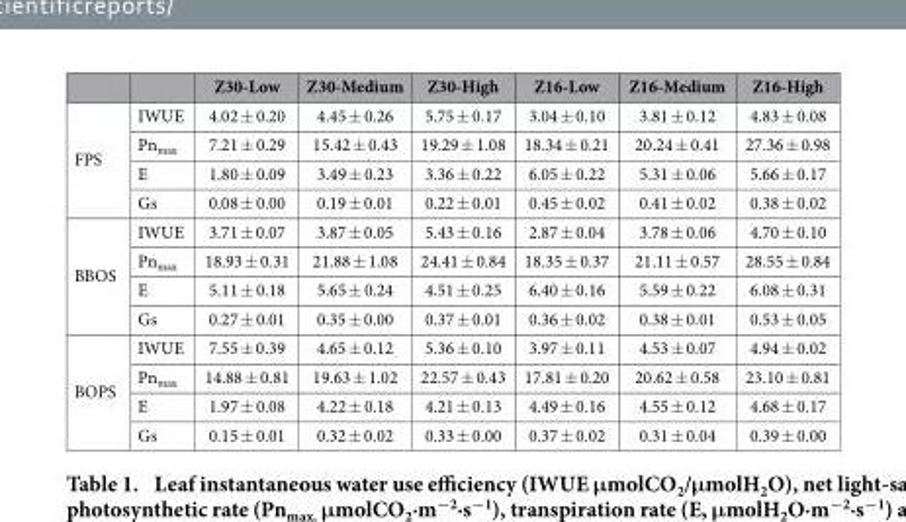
<table><thead><tr><td></td><td></td><td>Z30-Low</td><td>Z30-Medium</td><td>Z30-High</td><td>Z16-Low</td><td>Z16-Medium</td><td>Z16-High</td></tr></thead><tbody><tr><td rowspan="4">FPS</td><td>IWUE</td><td>4.02 ± 0.20</td><td>4.45 ± 0.26</td><td>5.75 ± 0.17</td><td>3.04 ± 0.10</td><td>3.81 ± 0.12</td><td>4.83 ± 0.08</td></tr><tr><td>Pn<sub>max</sub></td><td>7.21 ± 0.29</td><td>15.42 ± 0.43</td><td>19.29 ± 1.08</td><td>18.34 ± 0.21</td><td>20.24 ± 0.41</td><td>27.36 ± 0.98</td></tr><tr><td>E</td><td>1.80 ± 0.09</td><td>3.49 ± 0.23</td><td>3.36 ± 0.22</td><td>6.05 ± 0.22</td><td>5.31 ± 0.06</td><td>5.66 ± 0.17</td></tr><tr><td>Gs</td><td>0.08 ± 0.00</td><td>0.19 ± 0.01</td><td>0.22 ± 0.01</td><td>0.45 ± 0.02</td><td>0.41 ± 0.02</td><td>0.38 ± 0.02</td></tr><tr><td rowspan="4">BBOS</td><td>IWUE</td><td>3.71 ± 0.07</td><td>3.87 ± 0.05</td><td>5.43 ± 0.16</td><td>2.87 ± 0.04</td><td>3.78 ± 0.06</td><td>4.70 ± 0.10</td></tr><tr><td>Pn<sub>max</sub></td><td>18.93 ± 0.31</td><td>21.88 ± 1.08</td><td>24.41 ± 0.84</td><td>18.35 ± 0.37</td><td>21.11 ± 0.57</td><td>28.55 ± 0.84</td></tr><tr><td>E</td><td>5.11 ± 0.18</td><td>5.65 ± 0.24</td><td>4.51 ± 0.25</td><td>6.40 ± 0.16</td><td>5.59 ± 0.22</td><td>6.08 ± 0.31</td></tr><tr><td>Gs</td><td>0.27 ± 0.01</td><td>0.35 ± 0.00</td><td>0.37 ± 0.01</td><td>0.36 ± 0.02</td><td>0.38 ± 0.01</td><td>0.53 ± 0.05</td></tr><tr><td rowspan="4">BOPS</td><td>IWUE</td><td>7.55 ± 0.39</td><td>4.65 ± 0.12</td><td>5.36 ± 0.10</td><td>3.97 ± 0.11</td><td>4.53 ± 0.07</td><td>4.94 ± 0.02</td></tr><tr><td>Pn<sub>max</sub></td><td>14.88 ± 0.81</td><td>19.63 ± 1.02</td><td>22.57 ± 0.43</td><td>17.81 ± 0.20</td><td>20.62 ± 0.58</td><td>23.10 ± 0.81</td></tr><tr><td>E</td><td>1.97 ± 0.08</td><td>4.22 ± 0.18</td><td>4.21 ± 0.13</td><td>4.49 ± 0.16</td><td>4.55 ± 0.12</td><td>4.68 ± 0.17</td></tr><tr><td>Gs</td><td>0.15 ± 0.01</td><td>0.32 ± 0.02</td><td>0.33 ± 0.00</td><td>0.37 ± 0.02</td><td>0.31 ± 0.04</td><td>0.39 ± 0.00</td></tr></tbody></table>